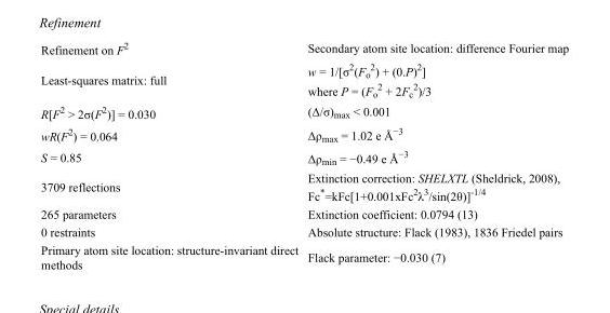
<table><tbody><tr><td>Refinement on F<sup>2</sup></td><td>Secondary atom site location: difference Fourier map</td></tr><tr><td>Least-squares matrix: full</td><td>w = 1/[σ<sup>2</sup>(F<sub>o</sub> <sup>2</sup>) + (0.P)<sup>2</sup>] where P = (F<sub>o</sub> <sup>2</sup> + 2F<sub>c</sub> <sup>2</sup>)/3</td></tr><tr><td>R[F<sup>2</sup> &gt; 2σ(F<sup>2</sup>)] = 0.030</td><td>(Δ/σ)<sub>max</sub> &lt; 0.001</td></tr><tr><td>wR(F<sup>2</sup>) = 0.064</td><td>Δρ<sub>max</sub> = 1.02 e Å<sup>−3</sup></td></tr><tr><td>S = 0.85</td><td>Δρ<sub>min</sub> = −0.49 e Å<sup>−3</sup></td></tr><tr><td>3709 reflections</td><td>Extinction correction: SHELXTL (Sheldrick, 2008), Fc*=kFc[1+0.001xFc<sup>2</sup>λ<sup>3</sup>/sin(2θ)]<sup>-1/4</sup></td></tr><tr><td>265 parameters</td><td>Extinction coefficient: 0.0794 (13)</td></tr><tr><td>0 restraints</td><td>Absolute structure: Flack (1983), 1836 Friedel pairs</td></tr><tr><td>Primary atom site location: structure-invariant direct methods</td><td>Flack parameter: −0.030 (7)</td></tr></tbody></table>